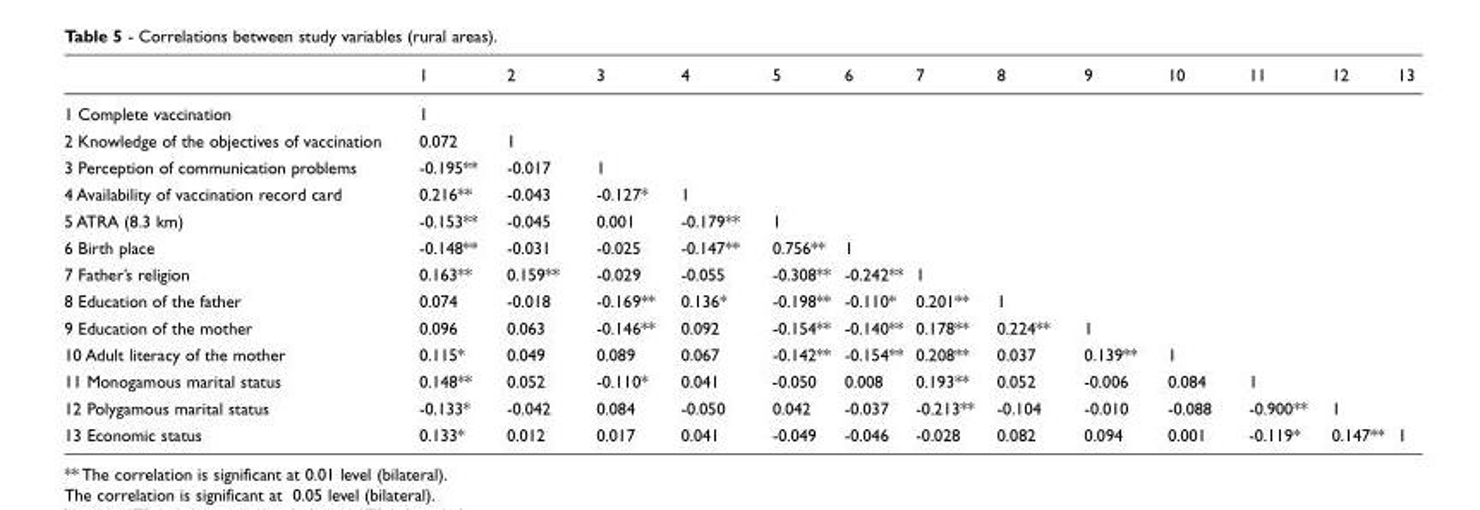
<table><thead><tr><td></td><td>1</td><td>2</td><td>3</td><td>4</td><td>5</td><td>6</td><td>7</td><td>8</td><td>9</td><td>10</td><td>11</td><td>12</td><td>13</td></tr></thead><tbody><tr><td>1 Complete vaccination</td><td>1</td><td></td><td></td><td></td><td></td><td></td><td></td><td></td><td></td><td></td><td></td><td></td><td></td></tr><tr><td>2 Knowledge of the objectives of vaccination</td><td>0.072</td><td>1</td><td></td><td></td><td></td><td></td><td></td><td></td><td></td><td></td><td></td><td></td><td></td></tr><tr><td>3 Perception of communication problems</td><td>-0.195**</td><td>-0.017</td><td>1</td><td></td><td></td><td></td><td></td><td></td><td></td><td></td><td></td><td></td><td></td></tr><tr><td>4 Availability of vaccination record card</td><td>0.216**</td><td>-0.043</td><td>-0.127*</td><td>1</td><td></td><td></td><td></td><td></td><td></td><td></td><td></td><td></td><td></td></tr><tr><td>5 ATRA (8.3 km)</td><td>-0.153**</td><td>-0.045</td><td>0.001</td><td>-0.179**</td><td>1</td><td></td><td></td><td></td><td></td><td></td><td></td><td></td><td></td></tr><tr><td>6 Birth place</td><td>-0.148**</td><td>-0.031</td><td>-0.025</td><td>-0.147**</td><td>0.756**</td><td>1</td><td></td><td></td><td></td><td></td><td></td><td></td><td></td></tr><tr><td>7 Father’s religion</td><td>0.163**</td><td>0.159**</td><td>-0.029</td><td>-0.055</td><td>-0.308**</td><td>-0.242**</td><td>1</td><td></td><td></td><td></td><td></td><td></td><td></td></tr><tr><td>8 Education of the father</td><td>0.074</td><td>-0.018</td><td>-0.169**</td><td>0.136*</td><td>-0.198**</td><td>-0.110*</td><td>0.201**</td><td>1</td><td></td><td></td><td></td><td></td><td></td></tr><tr><td>9 Education of the mother</td><td>0.096</td><td>0.063</td><td>-0.146**</td><td>0.092</td><td>-0.154**</td><td>-0.140**</td><td>0.178**</td><td>0.224**</td><td>1</td><td></td><td></td><td></td><td></td></tr><tr><td>10 Adult literacy of the mother</td><td>0.115*</td><td>0.049</td><td>0.089</td><td>0.067</td><td>-0.142**</td><td>-0.154**</td><td>0.208**</td><td>0.037</td><td>0.139**</td><td>1</td><td></td><td></td><td></td></tr><tr><td>11 Monogamous marital status</td><td>0.148**</td><td>0.052</td><td>-0.110*</td><td>0.041</td><td>-0.050</td><td>0.008</td><td>0.193**</td><td>0.052</td><td>-0.006</td><td>0.084</td><td>1</td><td></td><td></td></tr><tr><td>12 Polygamous marital status</td><td>-0.133*</td><td>-0.042</td><td>0.084</td><td>-0.050</td><td>0.042</td><td>-0.037</td><td>-0.213**</td><td>-0.104</td><td>-0.010</td><td>-0.088</td><td>-0.900**</td><td>1</td><td></td></tr><tr><td>13 Economic status</td><td>0.133*</td><td>0.012</td><td>0.017</td><td>0.041</td><td>-0.049</td><td>-0.046</td><td>-0.028</td><td>0.082</td><td>0.094</td><td>0.001</td><td>-0.119*</td><td>0.147**</td><td>1</td></tr></tbody></table>